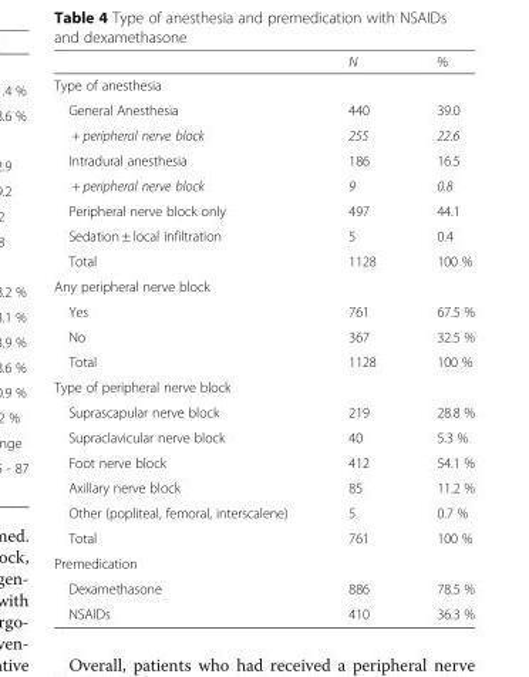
<table><thead><tr><td></td><td>N</td><td>%</td></tr></thead><tbody><tr><td colspan="3">Type of anesthesia</td></tr><tr><td>General Anesthesia</td><td>440</td><td>39.0</td></tr><tr><td>+ peripheral nerve block</td><td>255</td><td>22.6</td></tr><tr><td>Intradural anesthesia</td><td>186</td><td>16.5</td></tr><tr><td>+ peripheral nerve block</td><td>9</td><td>0.8</td></tr><tr><td>Peripheral nerve block only</td><td>497</td><td>44.1</td></tr><tr><td>Sedation ± local infiltration</td><td>5</td><td>0.4</td></tr><tr><td>Total</td><td>1128</td><td>100 %</td></tr><tr><td colspan="3">Any peripheral nerve block</td></tr><tr><td>Yes</td><td>761</td><td>67.5 %</td></tr><tr><td>No</td><td>367</td><td>32.5 %</td></tr><tr><td>Total</td><td>1128</td><td>100 %</td></tr><tr><td colspan="3">Type of peripheral nerve block</td></tr><tr><td>Suprascapular nerve block</td><td>219</td><td>28.8 %</td></tr><tr><td>Supraclavicular nerve block</td><td>40</td><td>5.3 %</td></tr><tr><td>Foot nerve block</td><td>412</td><td>54.1 %</td></tr><tr><td>Axillary nerve block</td><td>85</td><td>11.2 %</td></tr><tr><td>Other (popliteal, femoral, interscalene)</td><td>5</td><td>0.7 %</td></tr><tr><td>Total</td><td>761</td><td>100 %</td></tr><tr><td colspan="3">Premedication</td></tr><tr><td>Dexamethasone</td><td>886</td><td>78.5 %</td></tr><tr><td>NSAIDs</td><td>410</td><td>36.3 %</td></tr></tbody></table>